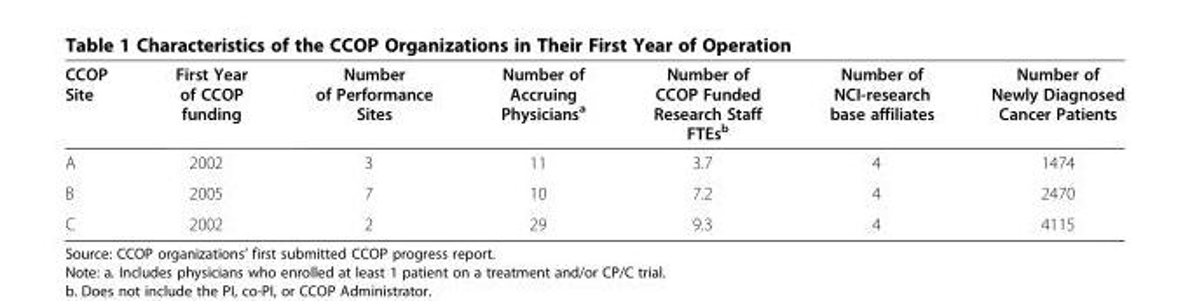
<table><thead><tr><td>CCOP Site</td><td>First Year of CCOP funding</td><td>Number of Performance Sites</td><td>Number of Accruing Physicians<sup>a</sup></td><td>Number of CCOP Funded Research Staff FTEs<sup>b</sup></td><td>Number of NCI-research base affiliates</td><td>Number of Newly Diagnosed Cancer Patients</td></tr></thead><tbody><tr><td>A</td><td>2002</td><td>3</td><td>11</td><td>3.7</td><td>4</td><td>1474</td></tr><tr><td>B</td><td>2005</td><td>7</td><td>10</td><td>7.2</td><td>4</td><td>2470</td></tr><tr><td>C</td><td>2002</td><td>2</td><td>29</td><td>9.3</td><td>4</td><td>4115</td></tr></tbody></table>